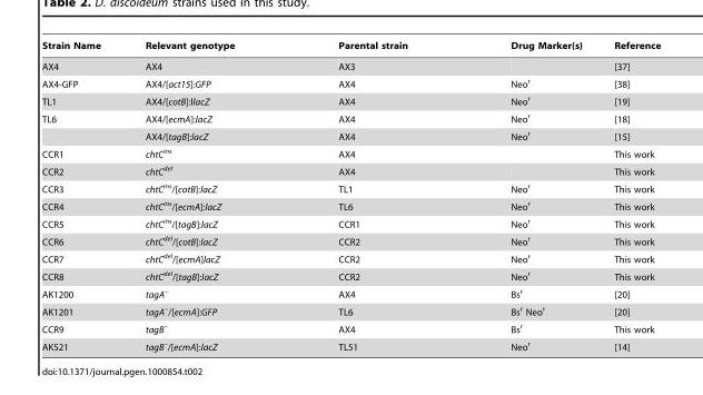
<table><thead><tr><td>Strain Name</td><td>Relevant genotype</td><td>Parental strain</td><td>Drug Marker(s)</td><td>Reference</td></tr></thead><tbody><tr><td>AX4</td><td>AX4</td><td>AX3</td><td></td><td>[37]</td></tr><tr><td>AX4-GFP</td><td>AX4/[act15]:GFP</td><td>AX4</td><td>Neo<sup>r</sup></td><td>[38]</td></tr><tr><td>TL1</td><td>AX4/[cotB]:llacZ</td><td>AX4</td><td>Neo<sup>r</sup></td><td>[19]</td></tr><tr><td rowspan="2">TL6</td><td>AX4/[ecmA]:lacZ</td><td>AX4</td><td>Neo<sup>r</sup></td><td>[18]</td></tr><tr><td>AX4/[tagB]:lacZ</td><td>AX4</td><td>Neo<sup>r</sup></td><td>[15]</td></tr><tr><td>CCR1</td><td>chtC<sup>ins</sup></td><td>AX4</td><td></td><td>This work</td></tr><tr><td>CCR2</td><td>chtC<sup>del</sup></td><td>AX4</td><td></td><td>This work</td></tr><tr><td>CCR3</td><td>chtC<sup>ins</sup>/[cotB]:lacZ</td><td>TL1</td><td>Neo<sup>r</sup></td><td>This work</td></tr><tr><td>CCR4</td><td>chtC<sup>ins</sup>/[ecmA]:lacZ</td><td>TL6</td><td>Neo<sup>r</sup></td><td>This work</td></tr><tr><td>CCR5</td><td>chtC<sup>ins</sup>/[tagB]:lacZ</td><td>CCR1</td><td>Neo<sup>r</sup></td><td>This work</td></tr><tr><td>CCR6</td><td>chtC<sup>del</sup>/[cotB]:lacZ</td><td>CCR2</td><td>Neo<sup>r</sup></td><td>This work</td></tr><tr><td>CCR7</td><td>chtC<sup>del</sup>/[ecmA]lacZ</td><td>CCR2</td><td>Neo<sup>r</sup></td><td>This work</td></tr><tr><td>CCR8</td><td>chtC<sup>del</sup>/[tagB]:lacZ</td><td>CCR2</td><td>Neo<sup>r</sup></td><td>This work</td></tr><tr><td>AK1200</td><td>tagA<sup>–</sup></td><td>AX4</td><td>Bs<sup>r</sup></td><td>[20]</td></tr><tr><td>AK1201</td><td>tagA<sup>–</sup>/[ecmA]:GFP</td><td>TL6</td><td>Bs<sup>r</sup> Neo<sup>r</sup></td><td>[20]</td></tr><tr><td>CCR9</td><td>tagB<sup>–</sup></td><td>AX4</td><td>Bs<sup>r</sup></td><td>This work</td></tr><tr><td>AK521</td><td>tagB<sup>–</sup>/[ecmA]:lacZ</td><td>TL51</td><td>Neo<sup>r</sup></td><td>[14]</td></tr></tbody></table>